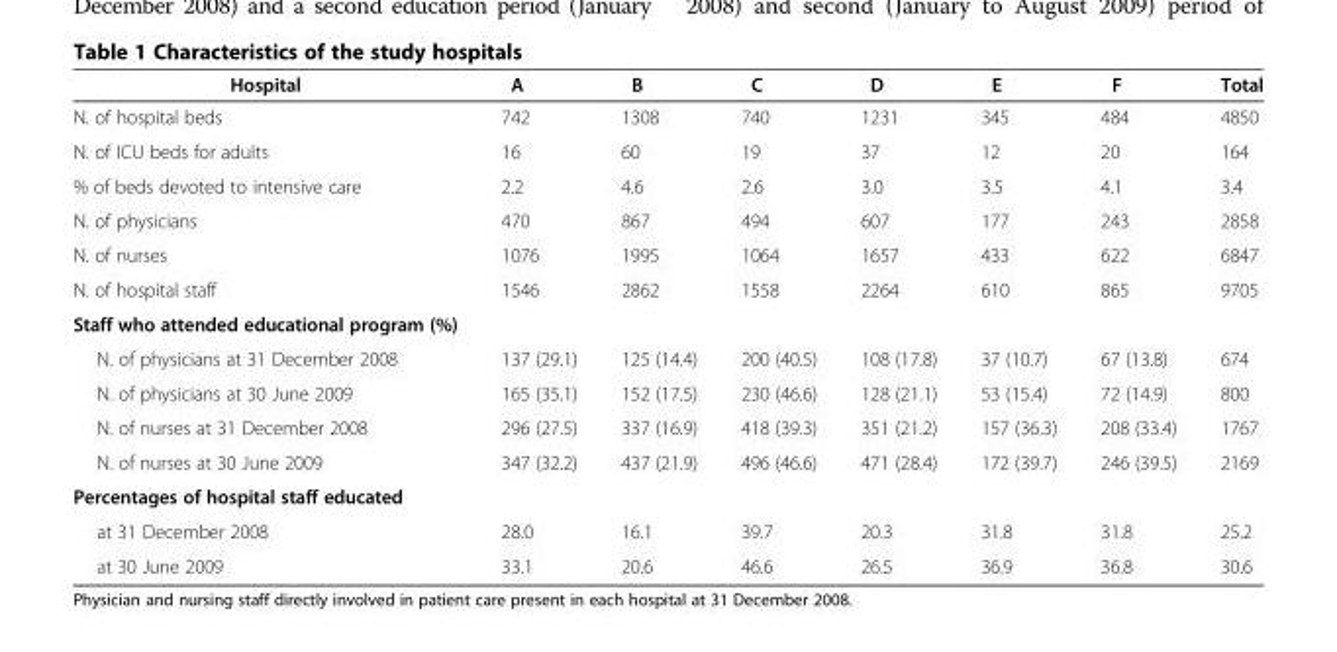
<table><thead><tr><td>Hospital</td><td>A</td><td>B</td><td>C</td><td>D</td><td>E</td><td>F</td><td>Total</td></tr></thead><tbody><tr><td>N. of hospital beds</td><td>742</td><td>1308</td><td>740</td><td>1231</td><td>345</td><td>484</td><td>4850</td></tr><tr><td>N. of ICU beds for adults</td><td>16</td><td>60</td><td>19</td><td>37</td><td>12</td><td>20</td><td>164</td></tr><tr><td>% of beds devoted to intensive care</td><td>2.2</td><td>4.6</td><td>2.6</td><td>3.0</td><td>3.5</td><td>4.1</td><td>3.4</td></tr><tr><td>N. of physicians</td><td>470</td><td>867</td><td>494</td><td>607</td><td>177</td><td>243</td><td>2858</td></tr><tr><td>N. of nurses</td><td>1076</td><td>1995</td><td>1064</td><td>1657</td><td>433</td><td>622</td><td>6847</td></tr><tr><td>N. of hospital staff</td><td>1546</td><td>2862</td><td>1558</td><td>2264</td><td>610</td><td>865</td><td>9705</td></tr><tr><td colspan="8">Staff who attended educational program (%)</td></tr><tr><td>N. of physicians at 31 December 2008</td><td>137 (29.1)</td><td>125 (14.4)</td><td>200 (40.5)</td><td>108 (17.8)</td><td>37 (10.7)</td><td>67 (13.8)</td><td>674</td></tr><tr><td>N. of physicians at 30 June 2009</td><td>165 (35.1)</td><td>152 (17.5)</td><td>230 (46.6)</td><td>128 (21.1)</td><td>53 (15.4)</td><td>72 (14.9)</td><td>800</td></tr><tr><td>N. of nurses at 31 December 2008</td><td>296 (27.5)</td><td>337 (16.9)</td><td>418 (39.3)</td><td>351 (21.2)</td><td>157 (36.3)</td><td>208 (33.4)</td><td>1767</td></tr><tr><td>N. of nurses at 30 June 2009</td><td>347 (32.2)</td><td>437 (21.9)</td><td>496 (46.6)</td><td>471 (28.4)</td><td>172 (39.7)</td><td>246 (39.5)</td><td>2169</td></tr><tr><td colspan="8">Percentages of hospital staff educated</td></tr><tr><td>at 31 December 2008</td><td>28.0</td><td>16.1</td><td>39.7</td><td>20.3</td><td>31.8</td><td>31.8</td><td>25.2</td></tr><tr><td>at 30 June 2009</td><td>33.1</td><td>20.6</td><td>46.6</td><td>26.5</td><td>36.9</td><td>36.8</td><td>30.6</td></tr></tbody></table>